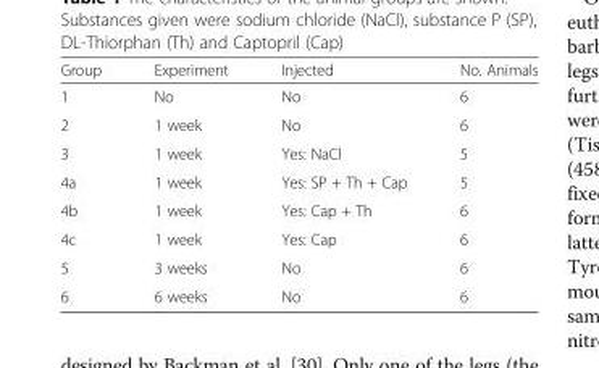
<table><thead><tr><td>Group</td><td>Experiment</td><td>Injected</td><td>No. Animals</td></tr></thead><tbody><tr><td>1</td><td>No</td><td>No</td><td>6</td></tr><tr><td>2</td><td>1 week</td><td>No</td><td>6</td></tr><tr><td>3</td><td>1 week</td><td>Yes: NaCl</td><td>5</td></tr><tr><td>4a</td><td>1 week</td><td>Yes: SP + Th + Cap</td><td>5</td></tr><tr><td>4b</td><td>1 week</td><td>Yes: Cap + Th</td><td>6</td></tr><tr><td>4c</td><td>1 week</td><td>Yes: Cap</td><td>6</td></tr><tr><td>5</td><td>3 weeks</td><td>No</td><td>6</td></tr><tr><td>6</td><td>6 weeks</td><td>No</td><td>6</td></tr></tbody></table>